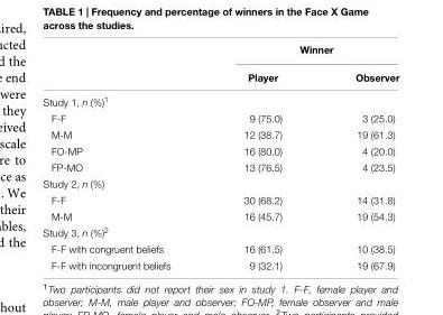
<table><thead><tr><td rowspan="2"></td><td colspan="2">Winner</td></tr><tr><td>Player</td><td>Observer</td></tr></thead><tbody><tr><td colspan="3">Study 1, n (%)<sup>1</sup></td></tr><tr><td>F-F</td><td>9 (75.0)</td><td>3 (25.0)</td></tr><tr><td>M-M</td><td>12 (38.7)</td><td>19 (61.3)</td></tr><tr><td>FO-MP</td><td>16 (80.0)</td><td>4 (20.0)</td></tr><tr><td>FP-MO</td><td>13 (76.5)</td><td>4 (23.5)</td></tr><tr><td colspan="3">Study 2, n (%)</td></tr><tr><td>F-F</td><td>30 (68.2)</td><td>14 (31.8)</td></tr><tr><td>M-M</td><td>16 (45.7)</td><td>19 (54.3)</td></tr><tr><td colspan="3">Study 3, n (%)<sup>2</sup></td></tr><tr><td>F-F with congruent beliefs</td><td>16 (61.5)</td><td>10 (38.5)</td></tr><tr><td>F-F with incongruent beliefs</td><td>9 (32.1)</td><td>19 (67.9)</td></tr></tbody></table>